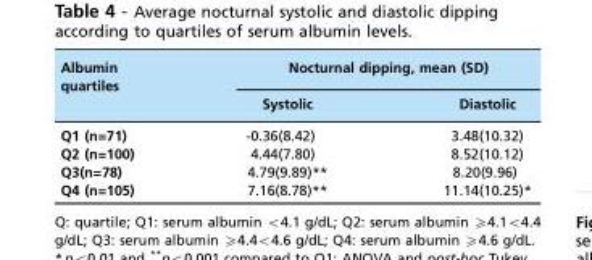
<table><thead><tr><td rowspan="2">Albumin quartiles</td><td colspan="2">Nocturnal dipping, mean (SD)</td></tr><tr><td>Systolic</td><td>Diastolic</td></tr></thead><tbody><tr><td>Q1 (n=71)</td><td>-0.36(8.42)</td><td>3.48(10.32)</td></tr><tr><td>Q2 (n=100)</td><td>4.44(7.80)</td><td>8.52(10.12)</td></tr><tr><td>Q3(n=78)</td><td>4.79(9.89)**</td><td>8.20(9.96)</td></tr><tr><td>Q4 (n=105)</td><td>7.16(8.78)**</td><td>11.14(10.25)*</td></tr></tbody></table>